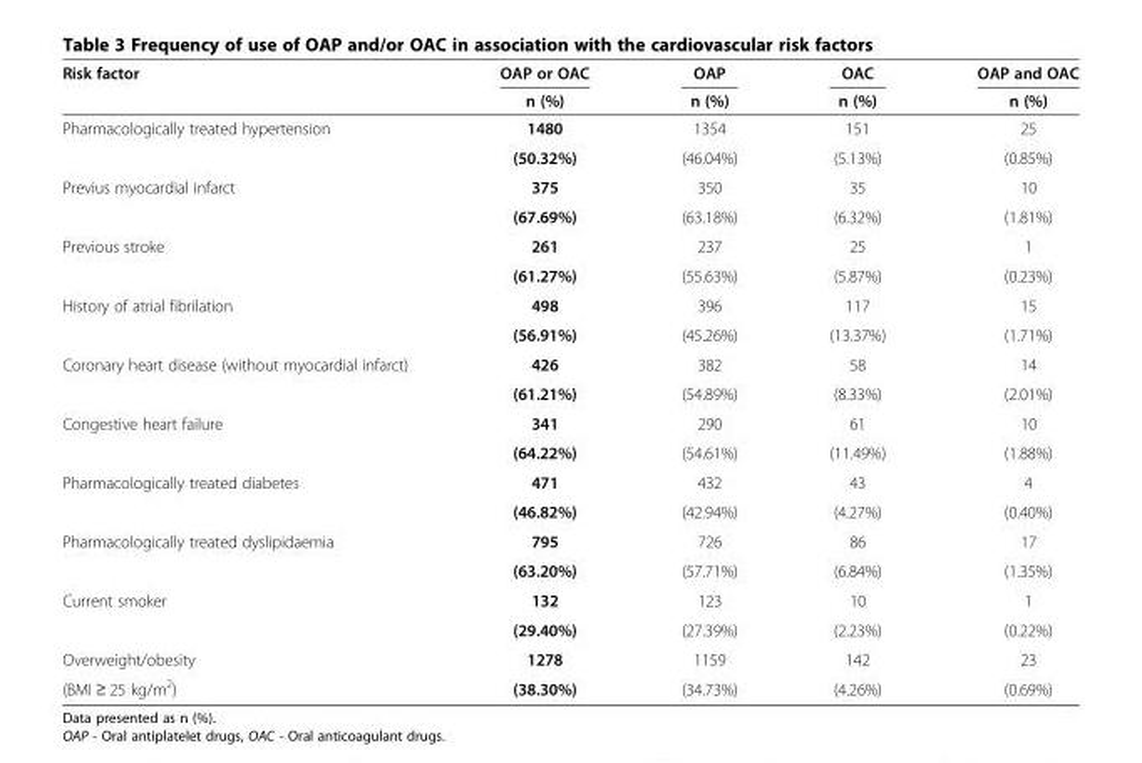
<table><thead><tr><td rowspan="2">Risk factor</td><td rowspan="2">OAP or OAC n (%)</td><td rowspan="2">OAP n (%)</td><td rowspan="2">OAC n (%)</td><td rowspan="2">OAP and OAC n (%)</td></tr><tr></tr></thead><tbody><tr><td rowspan="2">Pharmacologically treated hypertension</td><td>1480</td><td>1354</td><td>151</td><td>25</td></tr><tr><td>(50.32%)</td><td>(46.04%)</td><td>(5.13%)</td><td>(0.85%)</td></tr><tr><td rowspan="2">Previus myocardial infarct</td><td>375</td><td>350</td><td>35</td><td>10</td></tr><tr><td>(67.69%)</td><td>(63.18%)</td><td>(6.32%)</td><td>(1.81%)</td></tr><tr><td rowspan="2">Previous stroke</td><td>261</td><td>237</td><td>25</td><td>1</td></tr><tr><td>(61.27%)</td><td>(55.63%)</td><td>(5.87%)</td><td>(0.23%)</td></tr><tr><td rowspan="2">History of atrial fibrilation</td><td>498</td><td>396</td><td>117</td><td>15</td></tr><tr><td>(56.91%)</td><td>(45.26%)</td><td>(13.37%)</td><td>(1.71%)</td></tr><tr><td rowspan="2">Coronary heart disease (without myocardial infarct)</td><td>426</td><td>382</td><td>58</td><td>14</td></tr><tr><td>(61.21%)</td><td>(54.89%)</td><td>(8.33%)</td><td>(2.01%)</td></tr><tr><td rowspan="2">Congestive heart failure</td><td>341</td><td>290</td><td>61</td><td>10</td></tr><tr><td>(64.22%)</td><td>(54.61%)</td><td>(11.49%)</td><td>(1.88%)</td></tr><tr><td rowspan="2">Pharmacologically treated diabetes</td><td>471</td><td>432</td><td>43</td><td>4</td></tr><tr><td>(46.82%)</td><td>(42.94%)</td><td>(4.27%)</td><td>(0.40%)</td></tr><tr><td rowspan="2">Pharmacologically treated dyslipidaemia</td><td>795</td><td>726</td><td>86</td><td>17</td></tr><tr><td>(63.20%)</td><td>(57.71%)</td><td>(6.84%)</td><td>(1.35%)</td></tr><tr><td rowspan="2">Current smoker</td><td>132</td><td>123</td><td>10</td><td>1</td></tr><tr><td>(29.40%)</td><td>(27.39%)</td><td>(2.23%)</td><td>(0.22%)</td></tr><tr><td>Overweight/obesity</td><td>1278</td><td>1159</td><td>142</td><td>23</td></tr><tr><td>(BMI ≥ 25 kg/m<sup>2</sup>)</td><td>(38.30%)</td><td>(34.73%)</td><td>(4.26%)</td><td>(0.69%)</td></tr></tbody></table>